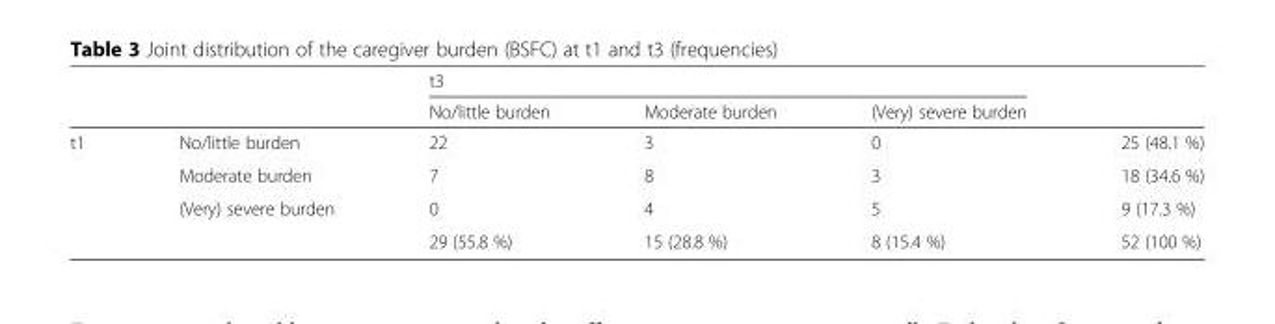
<table><thead><tr><td rowspan="2"></td><td rowspan="2"></td><td colspan="3">t3</td><td rowspan="2"></td></tr><tr><td>No/little burden</td><td>Moderate burden</td><td>(Very) severe burden</td></tr></thead><tbody><tr><td rowspan="4">t1</td><td>No/little burden</td><td>22</td><td>3</td><td>0</td><td>25 (48.1 %)</td></tr><tr><td>Moderate burden</td><td>7</td><td>8</td><td>3</td><td>18 (34.6 %)</td></tr><tr><td>(Very) severe burden</td><td>0</td><td>4</td><td>5</td><td>9 (17.3 %)</td></tr><tr><td></td><td>29 (55.8 %)</td><td>15 (28.8 %)</td><td>8 (15.4 %)</td><td>52 (100 %)</td></tr></tbody></table>